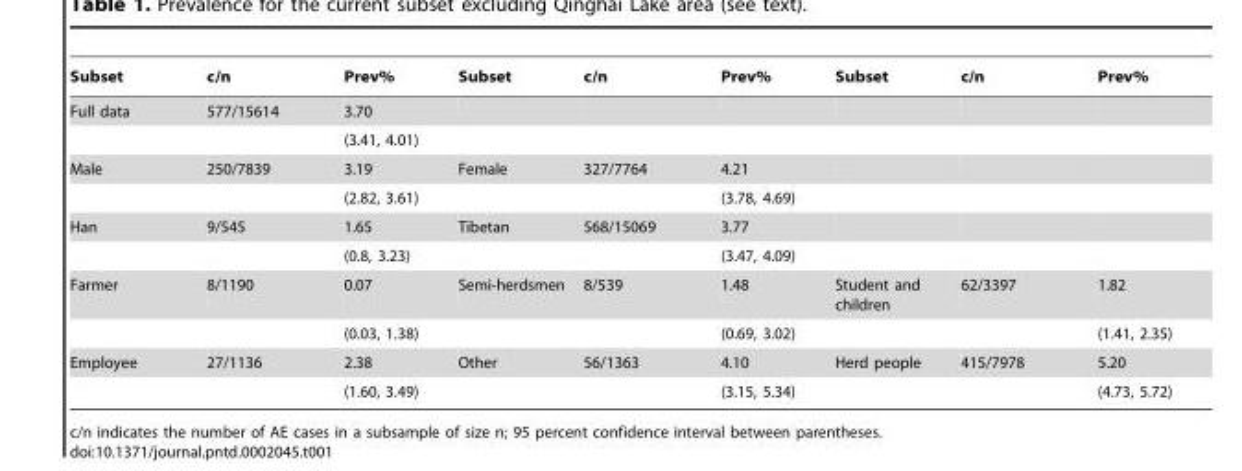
<table><thead><tr><td>Subset</td><td>c/n</td><td>Prev%</td><td>Subset</td><td>c/n</td><td>Prev%</td><td>Subset</td><td>c/n</td><td>Prev%</td></tr></thead><tbody><tr><td rowspan="2">Full data</td><td>577/15614</td><td>3.70</td><td></td><td></td><td></td><td></td><td></td><td></td></tr><tr><td></td><td>(3.41, 4.01)</td><td></td><td></td><td></td><td></td><td></td><td></td></tr><tr><td rowspan="2">Male</td><td>250/7839</td><td>3.19</td><td>Female</td><td>327/7764</td><td>4.21</td><td></td><td></td><td></td></tr><tr><td></td><td>(2.82, 3.61)</td><td></td><td></td><td>(3.78, 4.69)</td><td></td><td></td><td></td></tr><tr><td rowspan="2">Han</td><td>9/545</td><td>1.65</td><td>Tibetan</td><td>568/15069</td><td>3.77</td><td></td><td></td><td></td></tr><tr><td></td><td>(0.8, 3.23)</td><td></td><td></td><td>(3.47, 4.09)</td><td></td><td></td><td></td></tr><tr><td rowspan="2">Farmer</td><td>8/1190</td><td>0.07</td><td>Semi-herdsmen</td><td>8/539</td><td>1.48</td><td>Student and children</td><td>62/3397</td><td>1.82</td></tr><tr><td></td><td>(0.03, 1.38)</td><td></td><td></td><td>(0.69, 3.02)</td><td></td><td></td><td>(1.41, 2.35)</td></tr><tr><td rowspan="2">Employee</td><td>27/1136</td><td>2.38</td><td>Other</td><td>56/1363</td><td>4.10</td><td>Herd people</td><td>415/7978</td><td>5.20</td></tr><tr><td></td><td>(1.60, 3.49)</td><td></td><td></td><td>(3.15, 5.34)</td><td></td><td></td><td>(4.73, 5.72)</td></tr></tbody></table>